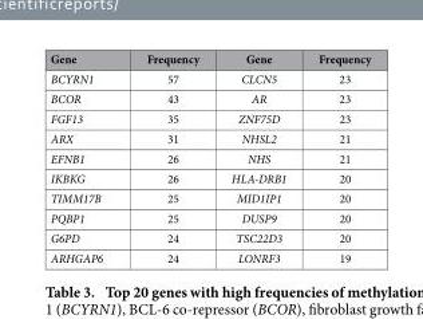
<table><thead><tr><td>Gene</td><td>Frequency</td><td>Gene</td><td>Frequency</td></tr></thead><tbody><tr><td>BCYRN1</td><td>57</td><td>CLCN5</td><td>23</td></tr><tr><td>BCOR</td><td>43</td><td>AR</td><td>23</td></tr><tr><td>FGF13</td><td>35</td><td>ZNF75D</td><td>23</td></tr><tr><td>ARX</td><td>31</td><td>NHSL2</td><td>21</td></tr><tr><td>EFNB1</td><td>26</td><td>NHS</td><td>21</td></tr><tr><td>IKBKG</td><td>26</td><td>HLA-DRB1</td><td>20</td></tr><tr><td>TIMM17B</td><td>25</td><td>MID1IP1</td><td>20</td></tr><tr><td>PQBP1</td><td>25</td><td>DUSP9</td><td>20</td></tr><tr><td>G6PD</td><td>24</td><td>TSC22D3</td><td>20</td></tr><tr><td>ARHGAP6</td><td>24</td><td>LONRF3</td><td>19</td></tr></tbody></table>